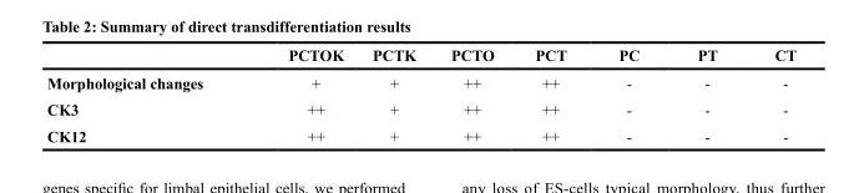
<table><thead><tr><td></td><td>PCTOK</td><td>PCTK</td><td>PCTO</td><td>PCT</td><td>PC</td><td>PT</td><td>CT</td></tr></thead><tbody><tr><td>Morphological changes</td><td>+</td><td>+</td><td>++</td><td>++</td><td>-</td><td>-</td><td>-</td></tr><tr><td>CK3</td><td>++</td><td>+</td><td>++</td><td>++</td><td>-</td><td>-</td><td>-</td></tr><tr><td>CK12</td><td>++</td><td>+</td><td>++</td><td>++</td><td>-</td><td>-</td><td>-</td></tr></tbody></table>